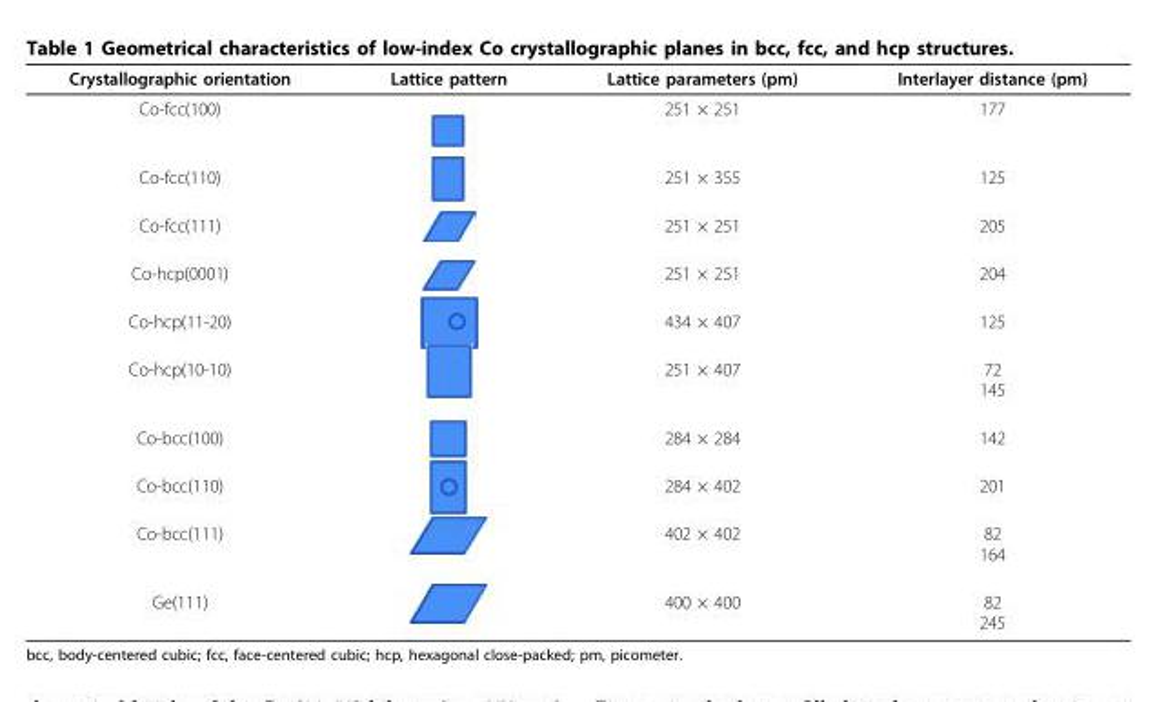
<table><thead><tr><td>Crystallographic orientation</td><td>Lattice pattern</td><td>Lattice parameters (pm)</td><td>Interlayer distance (pm)</td></tr></thead><tbody><tr><td>Co-fcc(100)</td><td></td><td>251 × 251</td><td>177</td></tr><tr><td>Co-fcc(110)</td><td></td><td>251 × 355</td><td>125</td></tr><tr><td>Co-fcc(111)</td><td></td><td>251 × 251</td><td>205</td></tr><tr><td>Co-hcp(0001)</td><td></td><td>251 × 251</td><td>204</td></tr><tr><td>Co-hcp(11-20)</td><td></td><td>434 × 407</td><td>125</td></tr><tr><td>Co-hcp(10-10)</td><td></td><td>251 × 407</td><td>72 145</td></tr><tr><td>Co-bcc(100)</td><td></td><td>284 × 284</td><td>142</td></tr><tr><td>Co-bcc(110)</td><td></td><td>284 × 402</td><td>201</td></tr><tr><td>Co-bcc(111)</td><td></td><td>402 × 402</td><td>82 164</td></tr><tr><td>Ge(111)</td><td></td><td>400 × 400</td><td>82 245</td></tr></tbody></table>